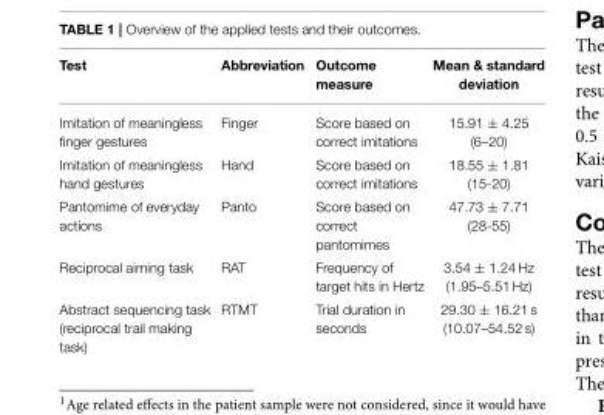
<table><thead><tr><td>Test</td><td>Abbreviation</td><td>Outcome measure</td><td>Mean &amp; standard deviation</td></tr></thead><tbody><tr><td>Imitation of meaningless finger gestures</td><td>Finger</td><td>Score based on correct imitations</td><td>15.91 ± 4.25 (6–20)</td></tr><tr><td>Imitation of meaningless hand gestures</td><td>Hand</td><td>Score based on correct imitations</td><td>18.55 ± 1.81 (15-20)</td></tr><tr><td>Pantomime of everyday actions</td><td>Panto</td><td>Score based on correct pantomimes</td><td>47.73 ± 7.71 (28-55)</td></tr><tr><td>Reciprocal aiming task</td><td>RAT</td><td>Frequency of target hits in Hertz</td><td>3.54 ± 1.24 Hz (1.95–5.51 Hz)</td></tr><tr><td>Abstract sequencing task (reciprocal trail making task)</td><td>RTMT</td><td>Trial duration in seconds</td><td>29.30 ± 16.21 s (10.07–54.52 s)</td></tr></tbody></table>